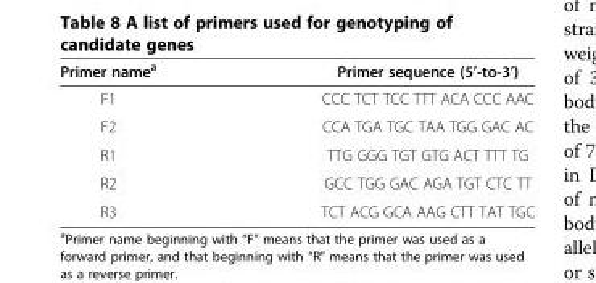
<table><thead><tr><td>Primer name<sup>a</sup></td><td>Primer sequence (5’-to-3’)</td></tr></thead><tbody><tr><td>F1</td><td>CCC TCT TCC TTT ACA CCC AAC</td></tr><tr><td>F2</td><td>CCA TGA TGC TAA TGG GAC AC</td></tr><tr><td>R1</td><td>TTG GGG TGT GTG ACT TTT TG</td></tr><tr><td>R2</td><td>GCC TGG GAC AGA TGT CTC TT</td></tr><tr><td>R3</td><td>TCT ACG GCA AAG CTT TAT TGC</td></tr></tbody></table>